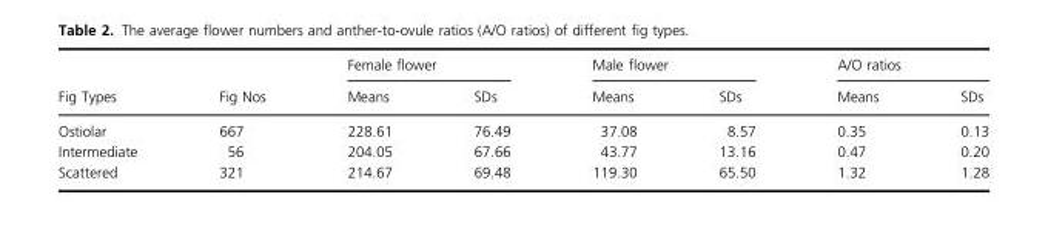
<table><thead><tr><td rowspan="2">Fig Types</td><td rowspan="2">Fig Nos</td><td colspan="2">Female flower</td><td colspan="2">Male flower</td><td colspan="2">A/O ratios</td></tr><tr><td>Means</td><td>SDs</td><td>Means</td><td>SDs</td><td>Means</td><td>SDs</td></tr></thead><tbody><tr><td>Ostiolar</td><td>667</td><td>228.61</td><td>76.49</td><td>37.08</td><td>8.57</td><td>0.35</td><td>0.13</td></tr><tr><td>Intermediate</td><td>56</td><td>204.05</td><td>67.66</td><td>43.77</td><td>13.16</td><td>0.47</td><td>0.20</td></tr><tr><td>Scattered</td><td>321</td><td>214.67</td><td>69.48</td><td>119.30</td><td>65.50</td><td>1.32</td><td>1.28</td></tr></tbody></table>